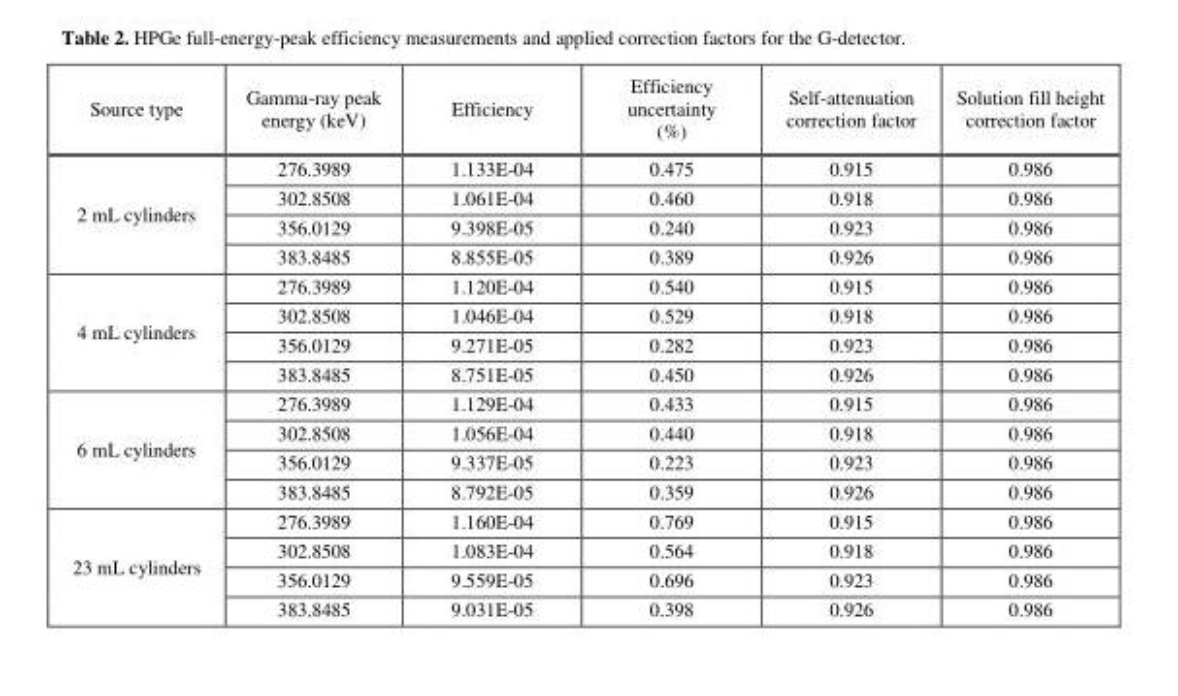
<table><thead><tr><td>Source type</td><td>Gamma-ray peak energy (keV)</td><td>Efficiency</td><td>Efficiency uncertainty (%)</td><td>Self-attenuation correction factor</td><td>Solution fill height correction factor</td></tr></thead><tbody><tr><td rowspan="4">2 mL cylinders</td><td>276.3989</td><td>1.133E-04</td><td>0.475</td><td>0.915</td><td>0.986</td></tr><tr><td>302.8508</td><td>1.061E-04</td><td>0.460</td><td>0.918</td><td>0.986</td></tr><tr><td>356.0129</td><td>9.398E-05</td><td>0.240</td><td>0.923</td><td>0.986</td></tr><tr><td>383.8485</td><td>8.855E-05</td><td>0.389</td><td>0.926</td><td>0.986</td></tr><tr><td rowspan="4">4 mL cylinders</td><td>276.3989</td><td>1.120E-04</td><td>0.540</td><td>0.915</td><td>0.986</td></tr><tr><td>302.8508</td><td>1.046E-04</td><td>0.529</td><td>0.918</td><td>0.986</td></tr><tr><td>356.0129</td><td>9.271E-05</td><td>0.282</td><td>0.923</td><td>0.986</td></tr><tr><td>383.8485</td><td>8.751E-05</td><td>0.450</td><td>0.926</td><td>0.986</td></tr><tr><td rowspan="4">6 mL cylinders</td><td>276.3989</td><td>1.129E-04</td><td>0.433</td><td>0.915</td><td>0.986</td></tr><tr><td>302.8508</td><td>1.056E-04</td><td>0.440</td><td>0.918</td><td>0.986</td></tr><tr><td>356.0129</td><td>9.337E-05</td><td>0.223</td><td>0.923</td><td>0.986</td></tr><tr><td>383.8485</td><td>8.792E-05</td><td>0.359</td><td>0.926</td><td>0.986</td></tr><tr><td rowspan="4">23 mL cylinders</td><td>276.3989</td><td>1.160E-04</td><td>0.769</td><td>0.915</td><td>0.986</td></tr><tr><td>302.8508</td><td>1.083E-04</td><td>0.564</td><td>0.918</td><td>0.986</td></tr><tr><td>356.0129</td><td>9.559E-05</td><td>0.696</td><td>0.923</td><td>0.986</td></tr><tr><td>383.8485</td><td>9.031E-05</td><td>0.398</td><td>0.926</td><td>0.986</td></tr></tbody></table>